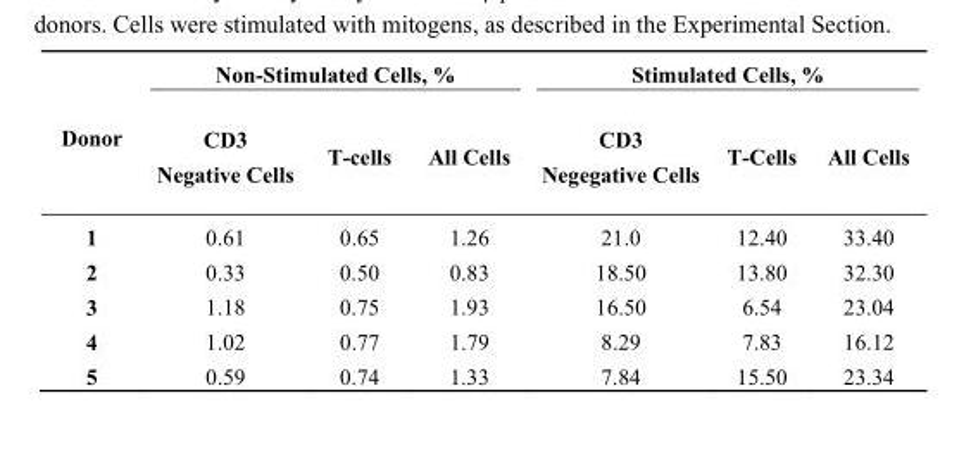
<table><thead><tr><td rowspan="2">Donor</td><td colspan="3">Non-Stimulated Cells, %</td><td colspan="3">Stimulated Cells, %</td></tr><tr><td>CD3 Negative Cells</td><td>T-cells</td><td>All Cells</td><td>CD3 Negegative Cells</td><td>T-Cells</td><td>All Cells</td></tr></thead><tbody><tr><td>1</td><td>0.61</td><td>0.65</td><td>1.26</td><td>21.0</td><td>12.40</td><td>33.40</td></tr><tr><td>2</td><td>0.33</td><td>0.50</td><td>0.83</td><td>18.50</td><td>13.80</td><td>32.30</td></tr><tr><td>3</td><td>1.18</td><td>0.75</td><td>1.93</td><td>16.50</td><td>6.54</td><td>23.04</td></tr><tr><td>4</td><td>1.02</td><td>0.77</td><td>1.79</td><td>8.29</td><td>7.83</td><td>16.12</td></tr><tr><td>5</td><td>0.59</td><td>0.74</td><td>1.33</td><td>7.84</td><td>15.50</td><td>23.34</td></tr></tbody></table>